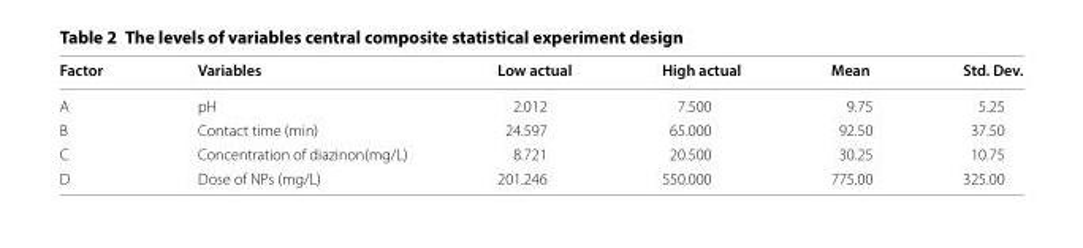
<table><thead><tr><td>Factor</td><td>Variables</td><td>Low actual</td><td>High actual</td><td>Mean</td><td>Std. Dev.</td></tr></thead><tbody><tr><td>A</td><td>pH</td><td>2.012</td><td>7.500</td><td>9.75</td><td>5.25</td></tr><tr><td>B</td><td>Contact time (min)</td><td>24.597</td><td>65.000</td><td>92.50</td><td>37.50</td></tr><tr><td>C</td><td>Concentration of diazinon(mg/L)</td><td>8.721</td><td>20.500</td><td>30.25</td><td>10.75</td></tr><tr><td>D</td><td>Dose of NPs (mg/L)</td><td>201.246</td><td>550.000</td><td>775.00</td><td>325.00</td></tr></tbody></table>